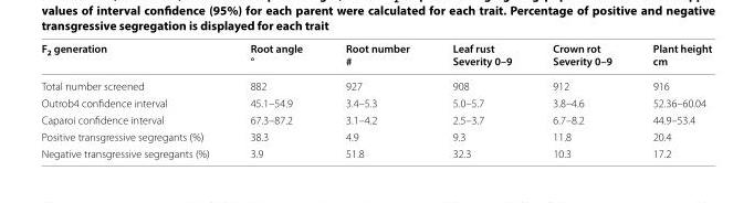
<table><thead><tr><td>F<sub>2</sub> generation</td><td>Root angle °</td><td>Root number #</td><td>Leaf rust Severity 0–9</td><td>Crown rot Severity 0–9</td><td>Plant height cm</td></tr></thead><tbody><tr><td>Total number screened</td><td>882</td><td>927</td><td>908</td><td>912</td><td>916</td></tr><tr><td>Outrob4 confidence interval</td><td>45.1–54.9</td><td>3.4–5.3</td><td>5.0–5.7</td><td>3.8–4.6</td><td>52.36–60.04</td></tr><tr><td>Caparoi confidence interval</td><td>67.3–87.2</td><td>3.1–4.2</td><td>2.5–3.7</td><td>6.7–8.2</td><td>44.9–53.4</td></tr><tr><td>Positive transgressive segregants (%)</td><td>38.3</td><td>4.9</td><td>9.3</td><td>11.8</td><td>20.4</td></tr><tr><td>Negative transgressive segregants (%)</td><td>3.9</td><td>51.8</td><td>32.3</td><td>10.3</td><td>17.2</td></tr></tbody></table>